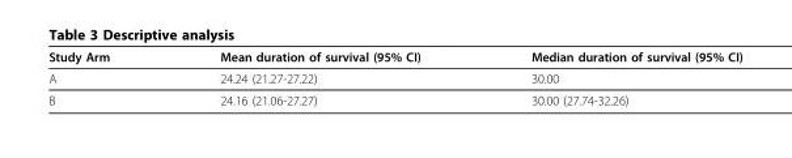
<table><thead><tr><td>Study Arm</td><td>Mean duration of survival (95% CI)</td><td>Median duration of survival (95% CI)</td></tr></thead><tbody><tr><td>A</td><td>24.24 (21.27-27.22)</td><td>30.00</td></tr><tr><td>B</td><td>24.16 (21.06-27.27)</td><td>30.00 (27.74-32.26)</td></tr></tbody></table>